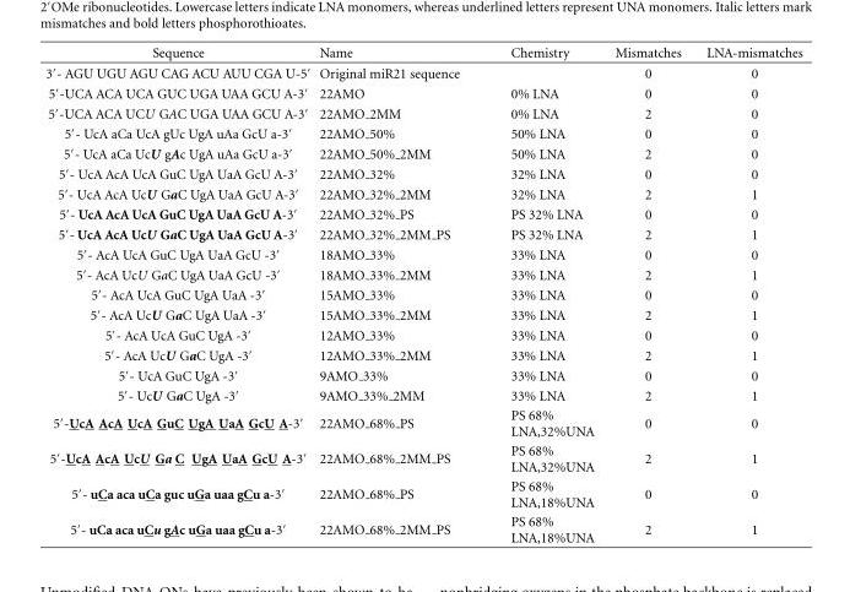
<table><thead><tr><td>Sequence</td><td>Name</td><td>Chemistry</td><td>Mismatches</td><td>LNA-mismatches</td></tr></thead><tbody><tr><td>3′- AGU UGU AGU CAG ACU AUU CGA U-5′</td><td>Original miR21 sequence</td><td></td><td>0</td><td>0</td></tr><tr><td>5′-UCA ACA UCA GUC UGA UAA GCU A-3′</td><td>22AMO</td><td>0% LNA</td><td>0</td><td>0</td></tr><tr><td>5′-UCA ACA UCU GAC UGA UAA GCU A-3′</td><td>22AMO 2MM</td><td>0% LNA</td><td>2</td><td>0</td></tr><tr><td>5′- UcA aCa UcA gUc UgA uAa GcU a-3′</td><td>22AMO 50%</td><td>50% LNA</td><td>0</td><td>0</td></tr><tr><td>5′- UcA aCa UcU gAc UgA uAa GcU a-3′</td><td>22AMO <sub>50%</sub> 2MM</td><td>50% LNA</td><td>2</td><td>0</td></tr><tr><td>5′- UcA AcA UcA GuC UgA UaA GcU A-3′</td><td>22AMO 32%</td><td>32% LNA</td><td>0</td><td>0</td></tr><tr><td>5′- UcA AcA UcU GaC UgA UaA GcU A-3′</td><td>22AMO <sub>32%</sub> 2MM</td><td>32% LNA</td><td>2</td><td>1</td></tr><tr><td>5′- UcA AcA UcA GuC UgA UaA GcU A-3′</td><td>22AMO <sub>32%</sub> PS</td><td>PS 32% LNA</td><td>0</td><td>0</td></tr><tr><td>5′- UcA AcA UcU GaC UgA UaA GcU A-3′</td><td>22AMO 32% 2MM PS</td><td>PS 32% LNA</td><td>2</td><td>1</td></tr><tr><td>5′- AcA UcA GuC UgA UaA GcU -3′</td><td>18AMO 33%</td><td>33% LNA</td><td>0</td><td>0</td></tr><tr><td>5′- AcA UcU GaC UgA UaA GcU -3′</td><td>18AMO <sub>33%</sub> 2MM</td><td>33% LNA</td><td>2</td><td>1</td></tr><tr><td>5′- AcA UcA GuC UgA UaA -3′</td><td>15AMO 33%</td><td>33% LNA</td><td>0</td><td>0</td></tr><tr><td>5′- AcA UcU GaC UgA UaA -3′</td><td>15AMO <sub>33%</sub> 2MM</td><td>33% LNA</td><td>2</td><td>1</td></tr><tr><td>5′- AcA UcA GuC UgA -3′</td><td>12AMO 33%</td><td>33% LNA</td><td>0</td><td>0</td></tr><tr><td>5′- AcA UcU GaC UgA -3′</td><td>12AMO <sub>33%</sub> 2MM</td><td>33% LNA</td><td>2</td><td>1</td></tr><tr><td>5′- UcA GuC UgA -3′</td><td>9AMO 33%</td><td>33% LNA</td><td>0</td><td>0</td></tr><tr><td>5′- UcU GaC UgA -3′</td><td>9AMO <sub>33%</sub> 2MM</td><td>33% LNA</td><td>2</td><td>1</td></tr><tr><td>5′-UcA AcA UcA GuC UgA UaA GcU A-3′</td><td>22AMO <sub>68%</sub> PS</td><td>PS 68% LNA,32%UNA</td><td>0</td><td>0</td></tr><tr><td>5′-UcA AcA UcU Ga C UgA UaA GcU A-3′</td><td>22AMO 68% 2MM PS</td><td>PS 68% LNA,32%UNA</td><td>2</td><td>1</td></tr><tr><td>5′- uCa aca uCa guc uGa uaa gCu a-3′</td><td>22AMO <sub>68%</sub> PS</td><td>PS 68% LNA,18%UNA</td><td>0</td><td>0</td></tr><tr><td>5′- uCa aca uCu gAc uGa uaa gCu a-3′</td><td>22AMO 68% 2MM PS</td><td>PS 68% LNA,18%UNA</td><td>2</td><td>1</td></tr></tbody></table>